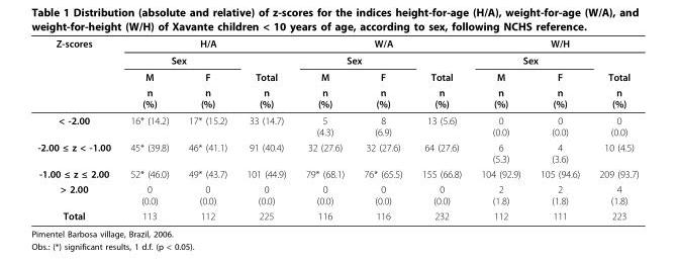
<table><thead><tr><td rowspan="4">Z-scores</td><td colspan="3">H/A</td><td colspan="3">W/A</td><td colspan="3">W/H</td></tr><tr><td colspan="2">Sex</td><td rowspan="3">Total n (%)</td><td colspan="2">Sex</td><td rowspan="3">Total n (%)</td><td colspan="2">Sex</td><td rowspan="3">Total n (%)</td></tr><tr><td rowspan="2">M n (%)</td><td rowspan="2">F n (%)</td><td rowspan="2">M n (%)</td><td rowspan="2">F n (%)</td><td rowspan="2">M n (%)</td><td rowspan="2">F n (%)</td></tr><tr></tr></thead><tbody><tr><td>&lt; -2.00</td><td>16* (14.2)</td><td>17* (15.2)</td><td>33 (14.7)</td><td>5 (4.3)</td><td>8 (6.9)</td><td>13 (5.6)</td><td>0 (0.0)</td><td>0 (0.0)</td><td>0 (0.0)</td></tr><tr><td>-2.00 ≤ z &lt; -1.00</td><td>45* (39.8)</td><td>46* (41.1)</td><td>91 (40.4)</td><td>32 (27.6)</td><td>32 (27.6)</td><td>64 (27.6)</td><td>6 (5.3)</td><td>4 (3.6)</td><td>10 (4.5)</td></tr><tr><td>-1.00 ≤ z ≤ 2.00</td><td>52* (46.0)</td><td>49* (43.7)</td><td>101 (44.9)</td><td>79* (68.1)</td><td>76* (65.5)</td><td>155 (66.8)</td><td>104 (92.9)</td><td>105 (94.6)</td><td>209 (93.7)</td></tr><tr><td>&gt; 2.00</td><td>0 (0.0)</td><td>0 (0.0)</td><td>0 (0.0)</td><td>0 (0.0)</td><td>0 (0.0)</td><td>0 (0.0)</td><td>2 (1.8)</td><td>2 (1.8)</td><td>4 (1.8)</td></tr><tr><td>Total</td><td>113</td><td>112</td><td>225</td><td>116</td><td>116</td><td>232</td><td>112</td><td>111</td><td>223</td></tr></tbody></table>